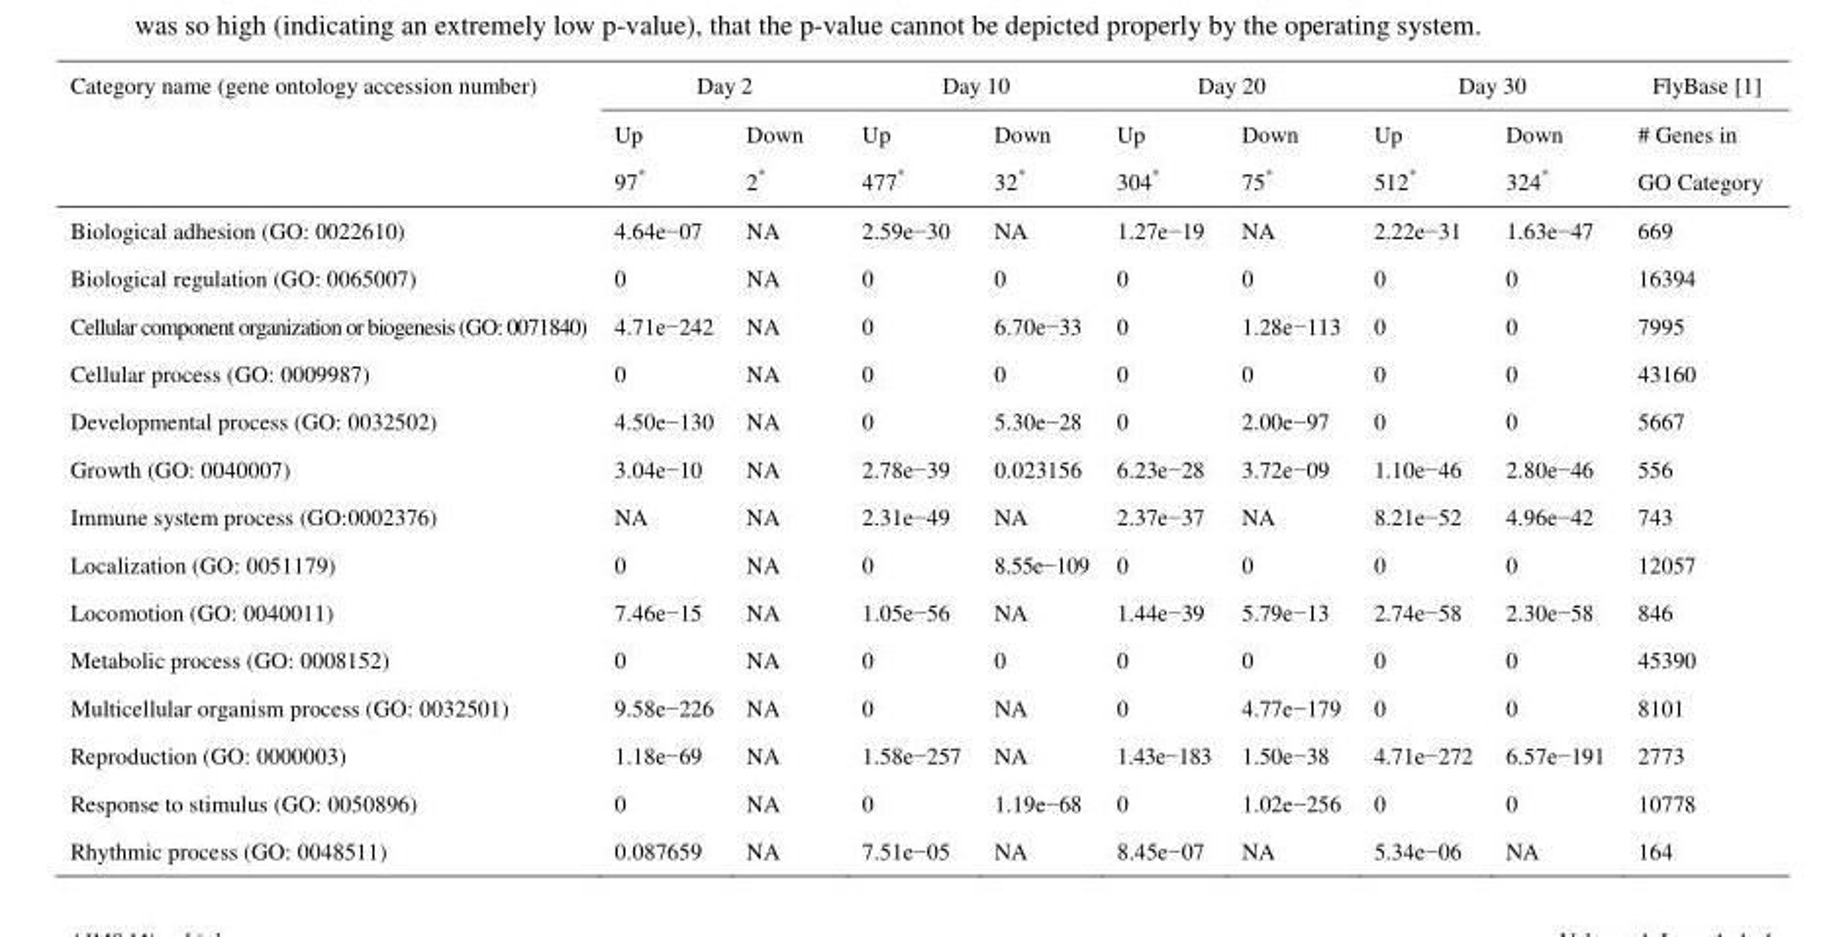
<table><thead><tr><td rowspan="2">Category name (gene ontology accession number)</td><td colspan="2">Day 2</td><td colspan="2">Day 10</td><td colspan="2">Day 20</td><td colspan="2">Day 30</td><td rowspan="2">FlyBase [1] # Genes in GO Category</td></tr><tr><td>Up 97*</td><td>Down 2*</td><td>Up 477*</td><td>Down 32*</td><td>Up 304*</td><td>Down 75*</td><td>Up 512*</td><td>Down 324*</td></tr></thead><tbody><tr><td>Biological adhesion (GO: 0022610)</td><td>4.64e−07</td><td>NA</td><td>2.59e−30</td><td>NA</td><td>1.27e−19</td><td>NA</td><td>2.22e−31</td><td>1.63e−47</td><td>669</td></tr><tr><td>Biological regulation (GO: 0065007)</td><td>0</td><td>NA</td><td>0</td><td>0</td><td>0</td><td>0</td><td>0</td><td>0</td><td>16394</td></tr><tr><td>Cellular component organization or biogenesis (GO: 0071840)</td><td>4.71e−242</td><td>NA</td><td>0</td><td>6.70e−33</td><td>0</td><td>1.28e−113</td><td>0</td><td>0</td><td>7995</td></tr><tr><td>Cellular process (GO: 0009987)</td><td>0</td><td>NA</td><td>0</td><td>0</td><td>0</td><td>0</td><td>0</td><td>0</td><td>43160</td></tr><tr><td>Developmental process (GO: 0032502)</td><td>4.50e−130</td><td>NA</td><td>0</td><td>5.30e−28</td><td>0</td><td>2.00e−97</td><td>0</td><td>0</td><td>5667</td></tr><tr><td>Growth (GO: 0040007)</td><td>3.04e−10</td><td>NA</td><td>2.78e−39</td><td>0.023156</td><td>6.23e−28</td><td>3.72e−09</td><td>1.10e−46</td><td>2.80e−46</td><td>556</td></tr><tr><td>Immune system process (GO:0002376)</td><td>NA</td><td>NA</td><td>2.31e−49</td><td>NA</td><td>2.37e−37</td><td>NA</td><td>8.21e−52</td><td>4.96e−42</td><td>743</td></tr><tr><td>Localization (GO: 0051179)</td><td>0</td><td>NA</td><td>0</td><td>8.55e−109</td><td>0</td><td>0</td><td>0</td><td>0</td><td>12057</td></tr><tr><td>Locomotion (GO: 0040011)</td><td>7.46e−15</td><td>NA</td><td>1.05e−56</td><td>NA</td><td>1.44e−39</td><td>5.79e−13</td><td>2.74e−58</td><td>2.30e−58</td><td>846</td></tr><tr><td>Metabolic process (GO: 0008152)</td><td>0</td><td>NA</td><td>0</td><td>0</td><td>0</td><td>0</td><td>0</td><td>0</td><td>45390</td></tr><tr><td>Multicellular organism process (GO: 0032501)</td><td>9.58e−226</td><td>NA</td><td>0</td><td>NA</td><td>0</td><td>4.77e−179</td><td>0</td><td>0</td><td>8101</td></tr><tr><td>Reproduction (GO: 0000003)</td><td>1.18e−69</td><td>NA</td><td>1.58e−257</td><td>NA</td><td>1.43e−183</td><td>1.50e−38</td><td>4.71e−272</td><td>6.57e−191</td><td>2773</td></tr><tr><td>Response to stimulus (GO: 0050896)</td><td>0</td><td>NA</td><td>0</td><td>1.19e−68</td><td>0</td><td>1.02e−256</td><td>0</td><td>0</td><td>10778</td></tr><tr><td>Rhythmic process (GO: 0048511)</td><td>0.087659</td><td>NA</td><td>7.51e−05</td><td>NA</td><td>8.45e−07</td><td>NA</td><td>5.34e−06</td><td>NA</td><td>164</td></tr></tbody></table>